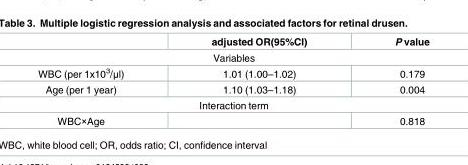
<table><thead><tr><td></td><td>adjusted OR(95%CI)</td><td>P value</td></tr></thead><tbody><tr><td colspan="3">Variables</td></tr><tr><td>WBC (per 1x10<sup>3</sup>/μl)</td><td>1.01 (1.00–1.02)</td><td>0.179</td></tr><tr><td>Age (per 1 year)</td><td>1.10 (1.03–1.18)</td><td>0.004</td></tr><tr><td colspan="3">Interaction term</td></tr><tr><td>WBC×Age</td><td></td><td>0.818</td></tr></tbody></table>